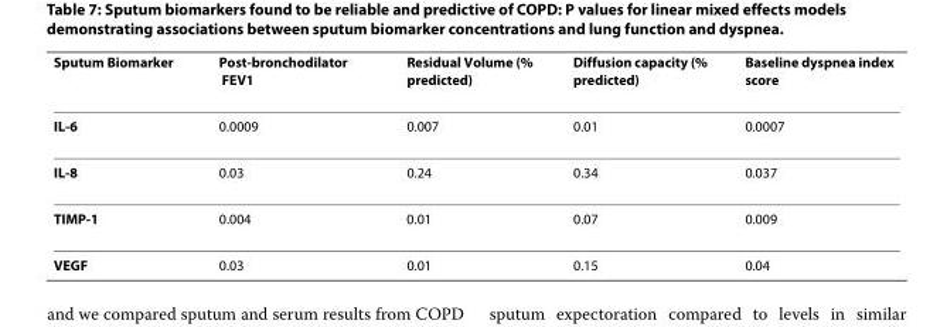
<table><thead><tr><td>Sputum Biomarker</td><td>Post-bronchodilator FEV1</td><td>Residual Volume (% predicted)</td><td>Diffusion capacity (% predicted)</td><td>Baseline dyspnea index score</td></tr></thead><tbody><tr><td>IL-6</td><td>0.0009</td><td>0.007</td><td>0.01</td><td>0.0007</td></tr><tr><td>IL-8</td><td>0.03</td><td>0.24</td><td>0.34</td><td>0.037</td></tr><tr><td>TIMP-1</td><td>0.004</td><td>0.01</td><td>0.07</td><td>0.009</td></tr><tr><td>VEGF</td><td>0.03</td><td>0.01</td><td>0.15</td><td>0.04</td></tr></tbody></table>